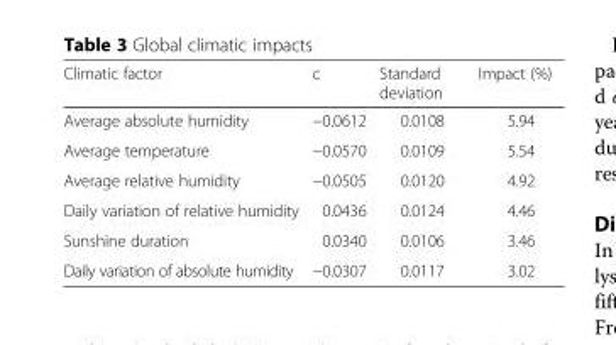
<table><thead><tr><td>Climatic factor</td><td>c</td><td>Standard deviation</td><td>Impact (%)</td></tr></thead><tbody><tr><td>Average absolute humidity</td><td>−0.0612</td><td>0.0108</td><td>5.94</td></tr><tr><td>Average temperature</td><td>−0.0570</td><td>0.0109</td><td>5.54</td></tr><tr><td>Average relative humidity</td><td>−0.0505</td><td>0.0120</td><td>4.92</td></tr><tr><td>Daily variation of relative humidity</td><td>0.0436</td><td>0.0124</td><td>4.46</td></tr><tr><td>Sunshine duration</td><td>0.0340</td><td>0.0106</td><td>3.46</td></tr><tr><td>Daily variation of absolute humidity</td><td>−0.0307</td><td>0.0117</td><td>3.02</td></tr></tbody></table>